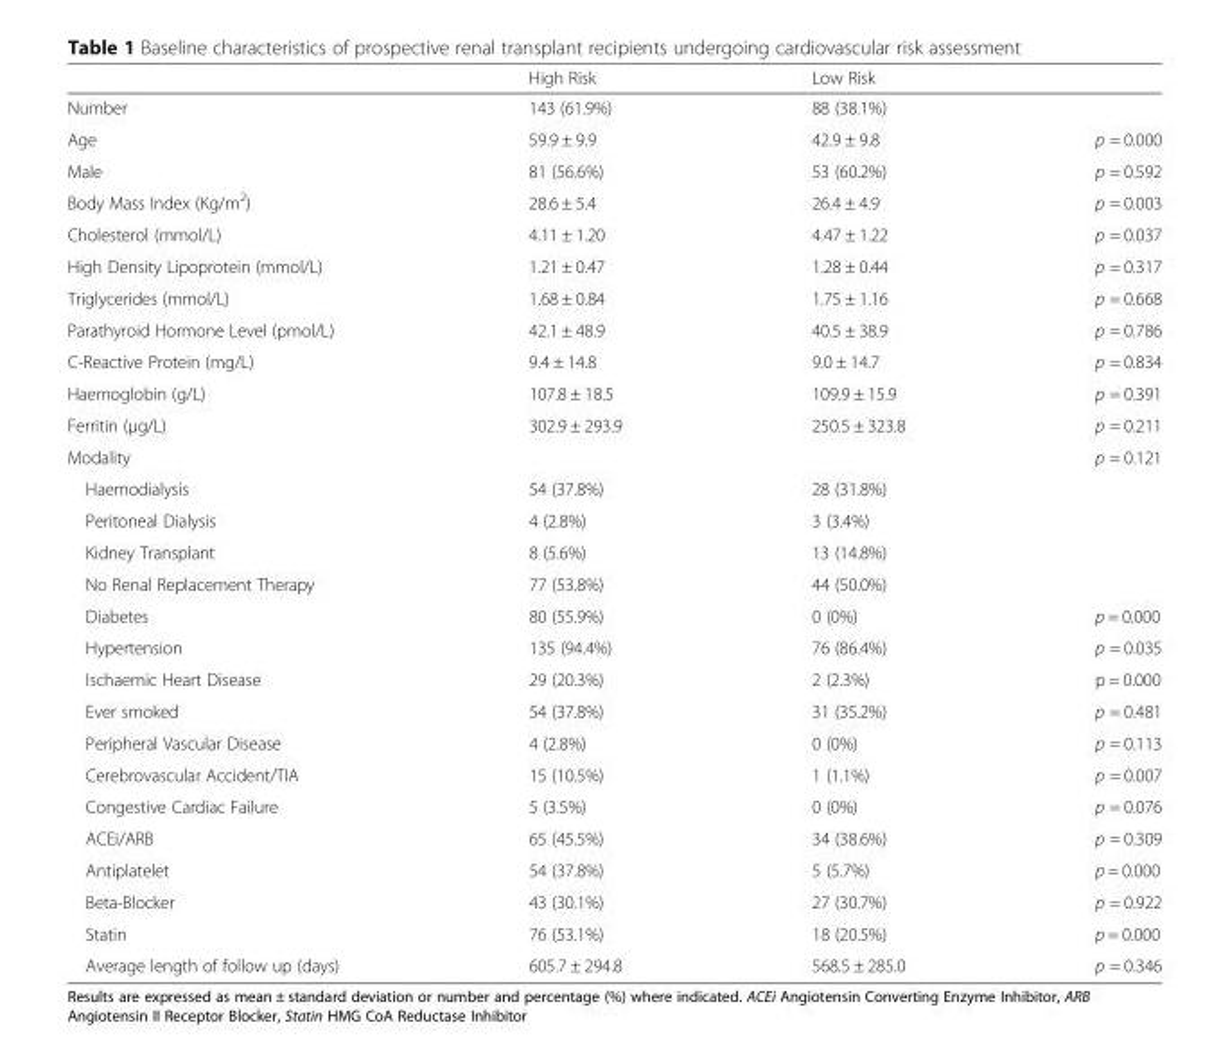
<table><thead><tr><td></td><td>High Risk</td><td>Low Risk</td><td></td></tr></thead><tbody><tr><td>Number</td><td>143 (61.9%)</td><td>88 (38.1%)</td><td></td></tr><tr><td>Age</td><td>59.9 ± 9.9</td><td>42.9 ± 9.8</td><td>p = 0.000</td></tr><tr><td>Male</td><td>81 (56.6%)</td><td>53 (60.2%)</td><td>p = 0.592</td></tr><tr><td>Body Mass Index (Kg/m<sup>2</sup>)</td><td>28.6 ± 5.4</td><td>26.4 ± 4.9</td><td>p = 0.003</td></tr><tr><td>Cholesterol (mmol/L)</td><td>4.11 ± 1.20</td><td>4.47 ± 1.22</td><td>p = 0.037</td></tr><tr><td>High Density Lipoprotein (mmol/L)</td><td>1.21 ± 0.47</td><td>1.28 ± 0.44</td><td>p = 0.317</td></tr><tr><td>Triglycerides (mmol/L)</td><td>1.68 ± 0.84</td><td>1.75 ± 1.16</td><td>p = 0.668</td></tr><tr><td>Parathyroid Hormone Level (pmol/L)</td><td>42.1 ± 48.9</td><td>40.5 ± 38.9</td><td>p = 0.786</td></tr><tr><td>C-Reactive Protein (mg/L)</td><td>9.4 ± 14.8</td><td>9.0 ± 14.7</td><td>p = 0.834</td></tr><tr><td>Haemoglobin (g/L)</td><td>107.8 ± 18.5</td><td>109.9 ± 15.9</td><td>p = 0.391</td></tr><tr><td>Ferritin (μg/L)</td><td>302.9 ± 293.9</td><td>250.5 ± 323.8</td><td>p = 0.211</td></tr><tr><td colspan="3">Modality</td><td>p = 0.121</td></tr><tr><td>Haemodialysis</td><td>54 (37.8%)</td><td>28 (31.8%)</td><td rowspan="4"></td></tr><tr><td>Peritoneal Dialysis</td><td>4 (2.8%)</td><td>3 (3.4%)</td></tr><tr><td>Kidney Transplant</td><td>8 (5.6%)</td><td>13 (14.8%)</td></tr><tr><td>No Renal Replacement Therapy</td><td>77 (53.8%)</td><td>44 (50.0%)</td></tr><tr><td>Diabetes</td><td>80 (55.9%)</td><td>0 (0%)</td><td>p = 0.000</td></tr><tr><td>Hypertension</td><td>135 (94.4%)</td><td>76 (86.4%)</td><td>p = 0.035</td></tr><tr><td>Ischaemic Heart Disease</td><td>29 (20.3%)</td><td>2 (2.3%)</td><td>p = 0.000</td></tr><tr><td>Ever smoked</td><td>54 (37.8%)</td><td>31 (35.2%)</td><td>p = 0.481</td></tr><tr><td>Peripheral Vascular Disease</td><td>4 (2.8%)</td><td>0 (0%)</td><td>p = 0.113</td></tr><tr><td>Cerebrovascular Accident/TIA</td><td>15 (10.5%)</td><td>1 (1.1%)</td><td>p = 0.007</td></tr><tr><td>Congestive Cardiac Failure</td><td>5 (3.5%)</td><td>0 (0%)</td><td>p = 0.076</td></tr><tr><td>ACEi/ARB</td><td>65 (45.5%)</td><td>34 (38.6%)</td><td>p = 0.309</td></tr><tr><td>Antiplatelet</td><td>54 (37.8%)</td><td>5 (5.7%)</td><td>p = 0.000</td></tr><tr><td>Beta-Blocker</td><td>43 (30.1%)</td><td>27 (30.7%)</td><td>p = 0.922</td></tr><tr><td>Statin</td><td>76 (53.1%)</td><td>18 (20.5%)</td><td>p = 0.000</td></tr><tr><td>Average length of follow up (days)</td><td>605.7 ± 294.8</td><td>568.5 ± 285.0</td><td>p = 0.346</td></tr></tbody></table>